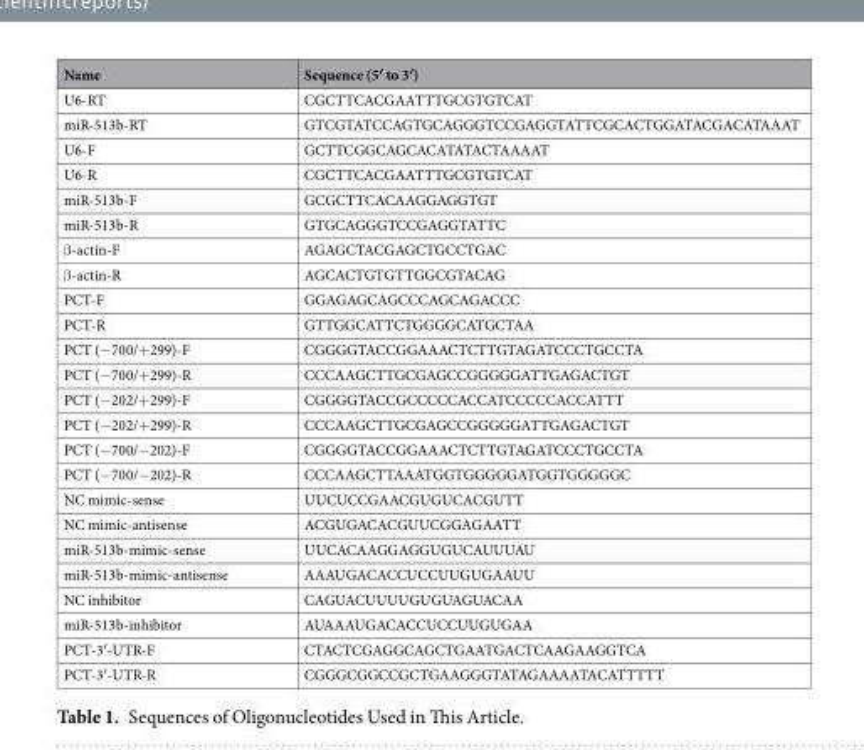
<table><thead><tr><td>Name</td><td>Sequence (5′ to 3′)</td></tr></thead><tbody><tr><td>U6-RT</td><td>CGCTTCACGAATTTGCGTGTCAT</td></tr><tr><td>miR-513b-RT</td><td>GTCGTATCCAGTGCAGGGTCCGAGGTATTCGCACTGGATACGACATAAAT</td></tr><tr><td>U6-F</td><td>GCTTCGGCAGCACATATACTAAAAT</td></tr><tr><td>U6-R</td><td>CGCTTCACGAATTTGCGTGTCAT</td></tr><tr><td>miR-513b-F</td><td>GCGCTTCACAAGGAGGTGT</td></tr><tr><td>miR-513b-R</td><td>GTGCAGGGTCCGAGGTATTC</td></tr><tr><td>β-actin-F</td><td>AGAGCTACGAGCTGCCTGAC</td></tr><tr><td>β-actin-R</td><td>AGCACTGTGTTGGCGTACAG</td></tr><tr><td>PCT-F</td><td>GGAGAGCAGCCCAGCAGACCC</td></tr><tr><td>PCT-R</td><td>GTTGGCATTCTGGGGCATGCTAA</td></tr><tr><td>PCT (−700/+299)-F</td><td>CGGGGTACCGGAAACTCTTGTAGATCCCTGCCTA</td></tr><tr><td>PCT (−700/+299)-R</td><td>CCCAAGCTTGCGAGCCGGGGGATTGAGACTGT</td></tr><tr><td>PCT (−202/+299)-F</td><td>CGGGGTACCGCCCCCACCATCCCCCACCATTT</td></tr><tr><td>PCT (−202/+299)-R</td><td>CCCAAGCTTGCGAGCCGGGGGATTGAGACTGT</td></tr><tr><td>PCT (−700/−202)-F</td><td>CGGGGTACCGGAAACTCTTGTAGATCCCTGCCTA</td></tr><tr><td>PCT (−700/−202)-R</td><td>CCCAAGCTTAAATGGTGGGGGATGGTGGGGGC</td></tr><tr><td>NC mimic-sense</td><td>UUCUCCGAACGUGUCACGUTT</td></tr><tr><td>NC mimic-antisense</td><td>ACGUGACACGUUCGGAGAATT</td></tr><tr><td>miR-513b-mimic-sense</td><td>UUCACAAGGAGGUGUCAUUUAU</td></tr><tr><td>miR-513b-mimic-antisense</td><td>AAAUGACACCUCCUUGUGAAUU</td></tr><tr><td>NC inhibitor</td><td>CAGUACUUUUGUGUAGUACAA</td></tr><tr><td>miR-513b-inhibitor</td><td>AUAAAUGACACCUCCUUGUGAA</td></tr><tr><td>PCT-3′-UTR-F</td><td>CTACTCGAGGCAGCTGAATGACTCAAGAAGGTCA</td></tr><tr><td>PCT-3′-UTR-R</td><td>CGGGCGGCCGCTGAAGGGTATAGAAAATACATTTTT</td></tr></tbody></table>